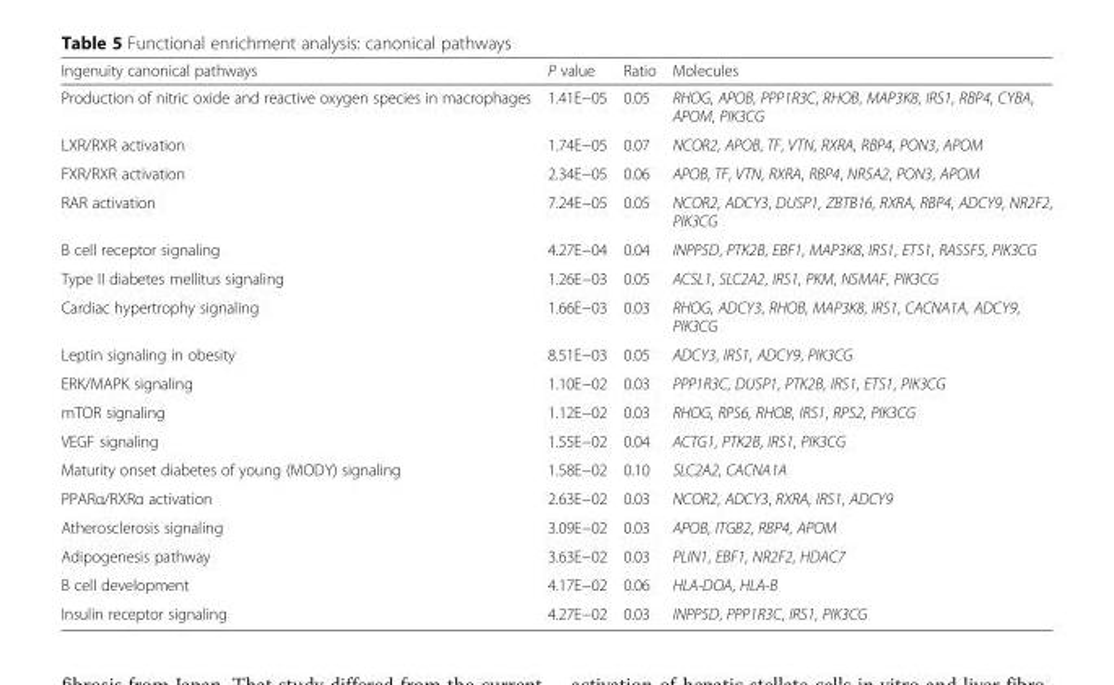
<table><thead><tr><td>Ingenuity canonical pathways</td><td>P value</td><td>Ratio</td><td>Molecules</td></tr></thead><tbody><tr><td>Production of nitric oxide and reactive oxygen species in macrophages</td><td>1.41E−05</td><td>0.05</td><td>RHOG, APOB, PPP1R3C, RHOB, MAP3K8, IRS1, RBP4, CYBA, APOM, PIK3CG</td></tr><tr><td>LXR/RXR activation</td><td>1.74E−05</td><td>0.07</td><td>NCOR2, APOB, TF, VTN, RXRA, RBP4, PON3, APOM</td></tr><tr><td>FXR/RXR activation</td><td>2.34E−05</td><td>0.06</td><td>APOB, TF, VTN, RXRA, RBP4, NR5A2, PON3, APOM</td></tr><tr><td>RAR activation</td><td>7.24E−05</td><td>0.05</td><td>NCOR2, ADCY3, DUSP1, ZBTB16, RXRA, RBP4, ADCY9, NR2F2, PIK3CG</td></tr><tr><td>B cell receptor signaling</td><td>4.27E−04</td><td>0.04</td><td>INPP5D, PTK2B, EBF1, MAP3K8, IRS1, ETS1, RASSF5, PIK3CG</td></tr><tr><td>Type II diabetes mellitus signaling</td><td>1.26E−03</td><td>0.05</td><td>ACSL1, SLC2A2, IRS1, PKM, NSMAF, PIK3CG</td></tr><tr><td>Cardiac hypertrophy signaling</td><td>1.66E−03</td><td>0.03</td><td>RHOG, ADCY3, RHOB, MAP3K8, IRS1, CACNA1A, ADCY9, PIK3CG</td></tr><tr><td>Leptin signaling in obesity</td><td>8.51E−03</td><td>0.05</td><td>ADCY3, IRS1, ADCY9, PIK3CG</td></tr><tr><td>ERK/MAPK signaling</td><td>1.10E−02</td><td>0.03</td><td>PPP1R3C, DUSP1, PTK2B, IRS1, ETS1, PIK3CG</td></tr><tr><td>mTOR signaling</td><td>1.12E−02</td><td>0.03</td><td>RHOG, RPS6, RHOB, IRS1, RPS2, PIK3CG</td></tr><tr><td>VEGF signaling</td><td>1.55E−02</td><td>0.04</td><td>ACTG1, PTK2B, IRS1, PIK3CG</td></tr><tr><td>Maturity onset diabetes of young (MODY) signaling</td><td>1.58E−02</td><td>0.10</td><td>SLC2A2, CACNA1A</td></tr><tr><td>PPARα/RXRα activation</td><td>2.63E−02</td><td>0.03</td><td>NCOR2, ADCY3, RXRA, IRS1, ADCY9</td></tr><tr><td>Atherosclerosis signaling</td><td>3.09E−02</td><td>0.03</td><td>APOB, ITGB2, RBP4, APOM</td></tr><tr><td>Adipogenesis pathway</td><td>3.63E−02</td><td>0.03</td><td>PLIN1, EBF1, NR2F2, HDAC7</td></tr><tr><td>B cell development</td><td>4.17E−02</td><td>0.06</td><td>HLA-DOA, HLA-B</td></tr><tr><td>Insulin receptor signaling</td><td>4.27E−02</td><td>0.03</td><td>INPP5D, PPP1R3C, IRS1, PIK3CG</td></tr></tbody></table>